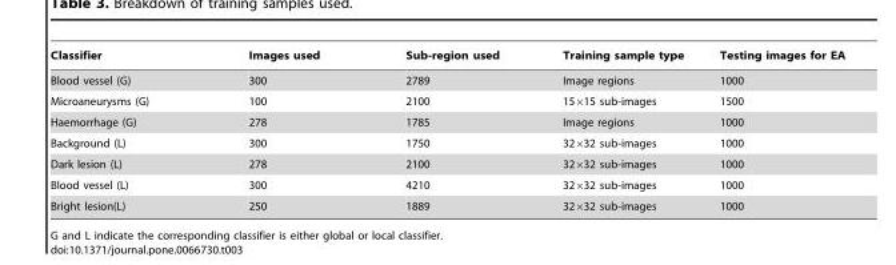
<table><thead><tr><td>Classifier</td><td>Images used</td><td>Sub-region used</td><td>Training sample type</td><td>Testing images for EA</td></tr></thead><tbody><tr><td>Blood vessel (G)</td><td>300</td><td>2789</td><td>Image regions</td><td>1000</td></tr><tr><td>Microaneurysms (G)</td><td>100</td><td>2100</td><td>15×15 sub-images</td><td>1500</td></tr><tr><td>Haemorrhage (G)</td><td>278</td><td>1785</td><td>Image regions</td><td>1000</td></tr><tr><td>Background (L)</td><td>300</td><td>1750</td><td>32×32 sub-images</td><td>1000</td></tr><tr><td>Dark lesion (L)</td><td>278</td><td>2100</td><td>32×32 sub-images</td><td>1000</td></tr><tr><td>Blood vessel (L)</td><td>300</td><td>4210</td><td>32×32 sub-images</td><td>1000</td></tr><tr><td>Bright lesion(L)</td><td>250</td><td>1889</td><td>32×32 sub-images</td><td>1000</td></tr></tbody></table>